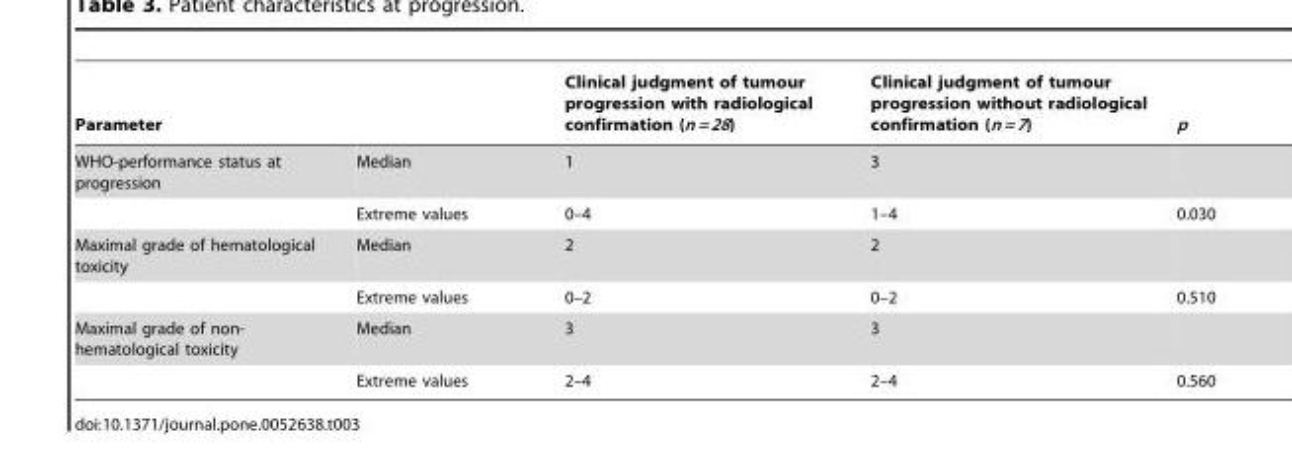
<table><thead><tr><td>Parameter</td><td></td><td>Clinical judgment of tumour progression with radiological confirmation (n = 28)</td><td>Clinical judgment of tumour progression without radiological confirmation (n = 7)</td><td>p</td></tr></thead><tbody><tr><td rowspan="2">WHO-performance status at progression</td><td>Median</td><td>1</td><td>3</td><td></td></tr><tr><td>Extreme values</td><td>0–4</td><td>1–4</td><td>0.030</td></tr><tr><td rowspan="2">Maximal grade of hematological toxicity</td><td>Median</td><td>2</td><td>2</td><td></td></tr><tr><td>Extreme values</td><td>0–2</td><td>0–2</td><td>0.510</td></tr><tr><td rowspan="2">Maximal grade of non- hematological toxicity</td><td>Median</td><td>3</td><td>3</td><td></td></tr><tr><td>Extreme values</td><td>2–4</td><td>2–4</td><td>0.560</td></tr></tbody></table>